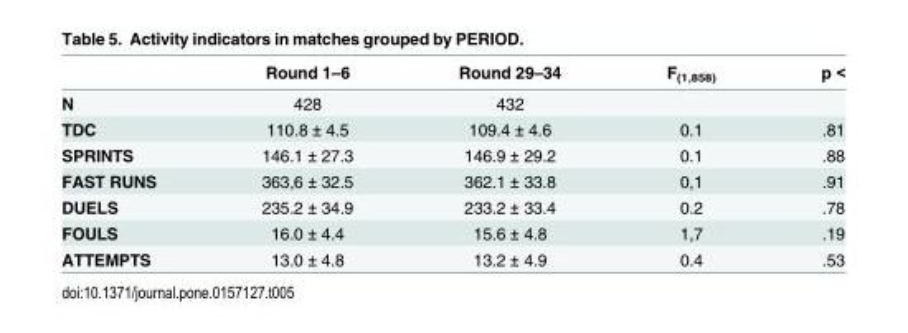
<table><thead><tr><td></td><td>Round 1–6</td><td>Round 29–34</td><td>F<sub>(1,858)</sub></td><td>p &lt;</td></tr></thead><tbody><tr><td>N</td><td>428</td><td>432</td><td></td><td></td></tr><tr><td>TDC</td><td>110.8 ± 4.5</td><td>109.4 ± 4.6</td><td>0.1</td><td>.81</td></tr><tr><td>SPRINTS</td><td>146.1 ± 27.3</td><td>146.9 ± 29.2</td><td>0.1</td><td>.88</td></tr><tr><td>FAST RUNS</td><td>363,6 ± 32.5</td><td>362.1 ± 33.8</td><td>0,1</td><td>.91</td></tr><tr><td>DUELS</td><td>235.2 ± 34.9</td><td>233.2 ± 33.4</td><td>0.2</td><td>.78</td></tr><tr><td>FOULS</td><td>16.0 ± 4.4</td><td>15.6 ± 4.8</td><td>1,7</td><td>.19</td></tr><tr><td>ATTEMPTS</td><td>13.0 ± 4.8</td><td>13.2 ± 4.9</td><td>0.4</td><td>.53</td></tr></tbody></table>